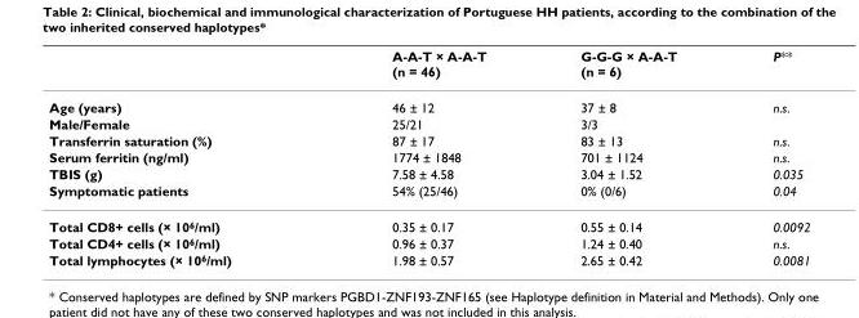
<table><thead><tr><td></td><td>A-A-T × A-A-T (n = 46)</td><td>G-G-G × A-A-T (n = 6)</td><td>P**</td></tr></thead><tbody><tr><td>Age (years)</td><td>46 ± 12</td><td>37 ± 8</td><td>n.s.</td></tr><tr><td>Male/Female</td><td>25/21</td><td>3/3</td><td></td></tr><tr><td>Transferrin saturation (%)</td><td>87 ± 17</td><td>83 ± 13</td><td>n.s.</td></tr><tr><td>Serum ferritin (ng/ml)</td><td>1774 ± 1848</td><td>701 ± 1124</td><td>n.s.</td></tr><tr><td>TBIS (g)</td><td>7.58 ± 4.58</td><td>3.04 ± 1.52</td><td>0.035</td></tr><tr><td>Symptomatic patients</td><td>54% (25/46)</td><td>0% (0/6)</td><td>0.04</td></tr><tr><td>Total CD8+ cells (× 10<sup>6</sup>/ml)</td><td>0.35 ± 0.17</td><td>0.55 ± 0.14</td><td>0.0092</td></tr><tr><td>Total CD4+ cells (× 10<sup>6</sup>/ml)</td><td>0.96 ± 0.37</td><td>1.24 ± 0.40</td><td>n.s.</td></tr><tr><td>Total lymphocytes (× 10<sup>6</sup>/ml)</td><td>1.98 ± 0.57</td><td>2.65 ± 0.42</td><td>0.0081</td></tr></tbody></table>